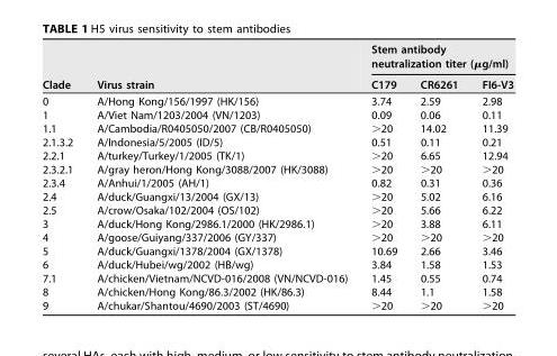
<table><thead><tr><td rowspan="2">Clade</td><td rowspan="2">Virus strain</td><td colspan="3">Stem antibody neutralization titer (μg/ml)</td></tr><tr><td>C179</td><td>CR6261</td><td>FI6-V3</td></tr></thead><tbody><tr><td>0</td><td>A/Hong Kong/156/1997 (HK/156)</td><td>3.74</td><td>2.59</td><td>2.98</td></tr><tr><td>1</td><td>A/Viet Nam/1203/2004 (VN/1203)</td><td>0.09</td><td>0.06</td><td>0.11</td></tr><tr><td>1.1</td><td>A/Cambodia/R0405050/2007 (CB/R0405050)</td><td>&gt;20</td><td>14.02</td><td>11.39</td></tr><tr><td>2.1.3.2</td><td>A/Indonesia/5/2005 (ID/5)</td><td>0.51</td><td>0.11</td><td>0.21</td></tr><tr><td>2.2.1</td><td>A/turkey/Turkey/1/2005 (TK/1)</td><td>&gt;20</td><td>6.65</td><td>12.94</td></tr><tr><td>2.3.2.1</td><td>A/gray heron/Hong Kong/3088/2007 (HK/3088)</td><td>&gt;20</td><td>&gt;20</td><td>&gt;20</td></tr><tr><td>2.3.4</td><td>A/Anhui/1/2005 (AH/1)</td><td>0.82</td><td>0.31</td><td>0.36</td></tr><tr><td>2.4</td><td>A/duck/Guangxi/13/2004 (GX/13)</td><td>&gt;20</td><td>5.02</td><td>6.16</td></tr><tr><td>2.5</td><td>A/crow/Osaka/102/2004 (OS/102)</td><td>&gt;20</td><td>5.66</td><td>6.22</td></tr><tr><td>3</td><td>A/duck/Hong Kong/2986.1/2000 (HK/2986.1)</td><td>&gt;20</td><td>3.88</td><td>6.11</td></tr><tr><td>4</td><td>A/goose/Guiyang/337/2006 (GY/337)</td><td>&gt;20</td><td>&gt;20</td><td>&gt;20</td></tr><tr><td>5</td><td>A/duck/Guangxi/1378/2004 (GX/1378)</td><td>10.69</td><td>2.66</td><td>3.46</td></tr><tr><td>6</td><td>A/duck/Hubei/wg/2002 (HB/wg)</td><td>3.84</td><td>1.58</td><td>1.53</td></tr><tr><td>7.1</td><td>A/chicken/Vietnam/NCVD-016/2008 (VN/NCVD-016)</td><td>1.45</td><td>0.55</td><td>0.74</td></tr><tr><td>8</td><td>A/chicken/Hong Kong/86.3/2002 (HK/86.3)</td><td>8.44</td><td>1.1</td><td>1.58</td></tr><tr><td>9</td><td>A/chukar/Shantou/4690/2003 (ST/4690)</td><td>&gt;20</td><td>&gt;20</td><td>&gt;20</td></tr></tbody></table>